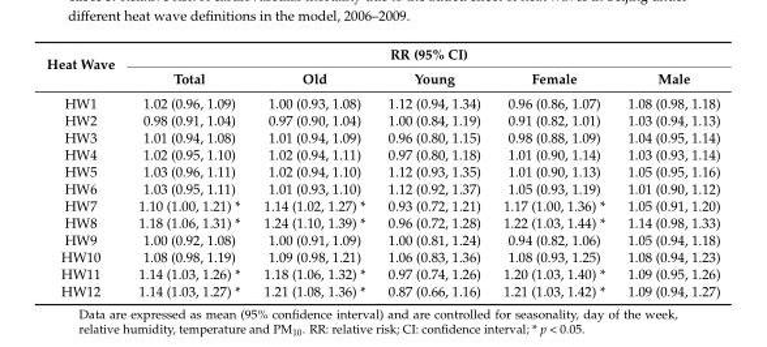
<table><thead><tr><td rowspan="2">Heat Wave</td><td colspan="5">RR (95% CI)</td></tr><tr><td>Total</td><td>Old</td><td>Young</td><td>Female</td><td>Male</td></tr></thead><tbody><tr><td>HW1</td><td>1.02 (0.96, 1.09)</td><td>1.00 (0.93, 1.08)</td><td>1.12 (0.94, 1.34)</td><td>0.96 (0.86, 1.07)</td><td>1.08 (0.98, 1.18)</td></tr><tr><td>HW2</td><td>0.98 (0.91, 1.04)</td><td>0.97 (0.90, 1.04)</td><td>1.00 (0.84, 1.19)</td><td>0.91 (0.82, 1.01)</td><td>1.03 (0.94, 1.13)</td></tr><tr><td>HW3</td><td>1.01 (0.94, 1.08)</td><td>1.01 (0.94, 1.09)</td><td>0.96 (0.80, 1.15)</td><td>0.98 (0.88, 1.09)</td><td>1.04 (0.95, 1.14)</td></tr><tr><td>HW4</td><td>1.02 (0.95, 1.10)</td><td>1.02 (0.94, 1.11)</td><td>0.97 (0.80, 1.18)</td><td>1.01 (0.90, 1.14)</td><td>1.03 (0.93, 1.14)</td></tr><tr><td>HW5</td><td>1.03 (0.96, 1.11)</td><td>1.02 (0.94, 1.10)</td><td>1.12 (0.93, 1.35)</td><td>1.01 (0.90, 1.13)</td><td>1.05 (0.95, 1.16)</td></tr><tr><td>HW6</td><td>1.03 (0.95, 1.11)</td><td>1.01 (0.93, 1.10)</td><td>1.12 (0.92, 1.37)</td><td>1.05 (0.93, 1.19)</td><td>1.01 (0.90, 1.12)</td></tr><tr><td>HW7</td><td>1.10 (1.00, 1.21) *</td><td>1.14 (1.02, 1.27) *</td><td>0.93 (0.72, 1.21)</td><td>1.17 (1.00, 1.36) *</td><td>1.05 (0.91, 1.20)</td></tr><tr><td>HW8</td><td>1.18 (1.06, 1.31) *</td><td>1.24 (1.10, 1.39) *</td><td>0.96 (0.72, 1.28)</td><td>1.22 (1.03, 1.44) *</td><td>1.14 (0.98, 1.33)</td></tr><tr><td>HW9</td><td>1.00 (0.92, 1.08)</td><td>1.00 (0.91, 1.09)</td><td>1.00 (0.81, 1.24)</td><td>0.94 (0.82, 1.06)</td><td>1.05 (0.94, 1.18)</td></tr><tr><td>HW10</td><td>1.08 (0.98, 1.19)</td><td>1.09 (0.98, 1.21)</td><td>1.06 (0.83, 1.36)</td><td>1.08 (0.93, 1.25)</td><td>1.08 (0.94, 1.23)</td></tr><tr><td>HW11</td><td>1.14 (1.03, 1.26) *</td><td>1.18 (1.06, 1.32) *</td><td>0.97 (0.74, 1.26)</td><td>1.20 (1.03, 1.40) *</td><td>1.09 (0.95, 1.26)</td></tr><tr><td>HW12</td><td>1.14 (1.03, 1.27) *</td><td>1.21 (1.08, 1.36) *</td><td>0.87 (0.66, 1.16)</td><td>1.21 (1.03, 1.42) *</td><td>1.09 (0.94, 1.27)</td></tr></tbody></table>